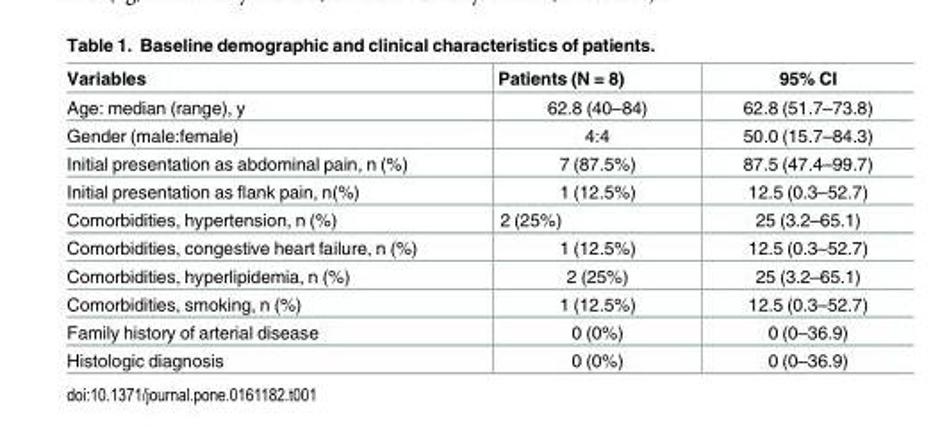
<table><thead><tr><td>Variables</td><td>Patients (N = 8)</td><td>95% CI</td></tr></thead><tbody><tr><td>Age: median (range), y</td><td>62.8 (40–84)</td><td>62.8 (51.7–73.8)</td></tr><tr><td>Gender (male:female)</td><td>4:4</td><td>50.0 (15.7–84.3)</td></tr><tr><td>Initial presentation as abdominal pain, n (%)</td><td>7 (87.5%)</td><td>87.5 (47.4–99.7)</td></tr><tr><td>Initial presentation as flank pain, n(%)</td><td>1 (12.5%)</td><td>12.5 (0.3–52.7)</td></tr><tr><td>Comorbidities, hypertension, n (%)</td><td>2 (25%)</td><td>25 (3.2–65.1)</td></tr><tr><td>Comorbidities, congestive heart failure, n (%)</td><td>1 (12.5%)</td><td>12.5 (0.3–52.7)</td></tr><tr><td>Comorbidities, hyperlipidemia, n (%)</td><td>2 (25%)</td><td>25 (3.2–65.1)</td></tr><tr><td>Comorbidities, smoking, n (%)</td><td>1 (12.5%)</td><td>12.5 (0.3–52.7)</td></tr><tr><td>Family history of arterial disease</td><td>0 (0%)</td><td>0 (0–36.9)</td></tr><tr><td>Histologic diagnosis</td><td>0 (0%)</td><td>0 (0–36.9)</td></tr></tbody></table>